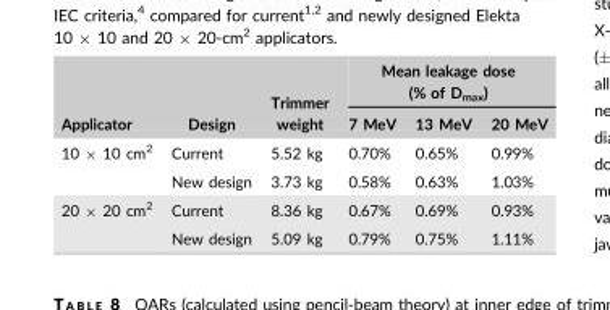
<table><thead><tr><td rowspan="2">Applicator</td><td rowspan="2">Design</td><td rowspan="2">Trimmer weight</td><td colspan="3">Mean leakage dose (% of D<sub>max</sub>)</td></tr><tr><td>7 MeV</td><td>13 MeV</td><td>20 MeV</td></tr></thead><tbody><tr><td rowspan="2">10 × 10 cm<sup>2</sup></td><td>Current</td><td>5.52 kg</td><td>0.70%</td><td>0.65%</td><td>0.99%</td></tr><tr><td>New design</td><td>3.73 kg</td><td>0.58%</td><td>0.63%</td><td>1.03%</td></tr><tr><td rowspan="2">20 × 20 cm<sup>2</sup></td><td>Current</td><td>8.36 kg</td><td>0.67%</td><td>0.69%</td><td>0.93%</td></tr><tr><td>New design</td><td>5.09 kg</td><td>0.79%</td><td>0.75%</td><td>1.11%</td></tr></tbody></table>